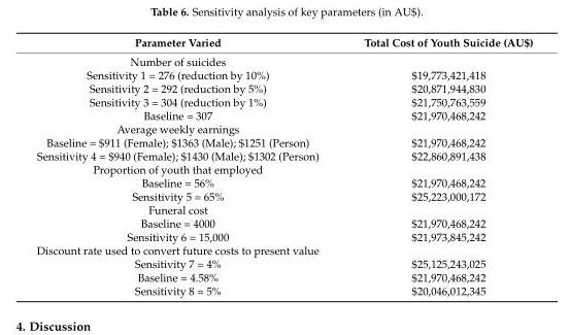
<table><thead><tr><td>Parameter Varied</td><td>Total Cost of Youth Suicide (AU$)</td></tr></thead><tbody><tr><td colspan="2">Number of suicides</td></tr><tr><td>Sensitivity 1 = 276 (reduction by 10%)</td><td>$19,773,421,418</td></tr><tr><td>Sensitivity 2 = 292 (reduction by 5%)</td><td>$20,871,944,830</td></tr><tr><td>Sensitivity 3 = 304 (reduction by 1%)</td><td>$21,750,763,559</td></tr><tr><td>Baseline = 307</td><td>$21,970,468,242</td></tr><tr><td colspan="2">Average weekly earnings</td></tr><tr><td>Baseline = $911 (Female); $1363 (Male); $1251 (Person)</td><td>$21,970,468,242</td></tr><tr><td>Sensitivity 4 = $940 (Female); $1430 (Male); $1302 (Person)</td><td>$22,860,891,438</td></tr><tr><td colspan="2">Proportion of youth that employed</td></tr><tr><td>Baseline = 56%</td><td>$21,970,468,242</td></tr><tr><td>Sensitivity 5 = 65%</td><td>$25,223,000,172</td></tr><tr><td colspan="2">Funeral cost</td></tr><tr><td>Baseline = 4000</td><td>$21,970,468,242</td></tr><tr><td>Sensitivity 6 = 15,000</td><td>$21,973,845,242</td></tr><tr><td colspan="2">Discount rate used to convert future costs to present value</td></tr><tr><td>Sensitivity 7 = 4%</td><td>$25,125,243,025</td></tr><tr><td>Baseline = 4.58%</td><td>$21,970,468,242</td></tr><tr><td>Sensitivity 8 = 5%</td><td>$20,046,012,345</td></tr></tbody></table>